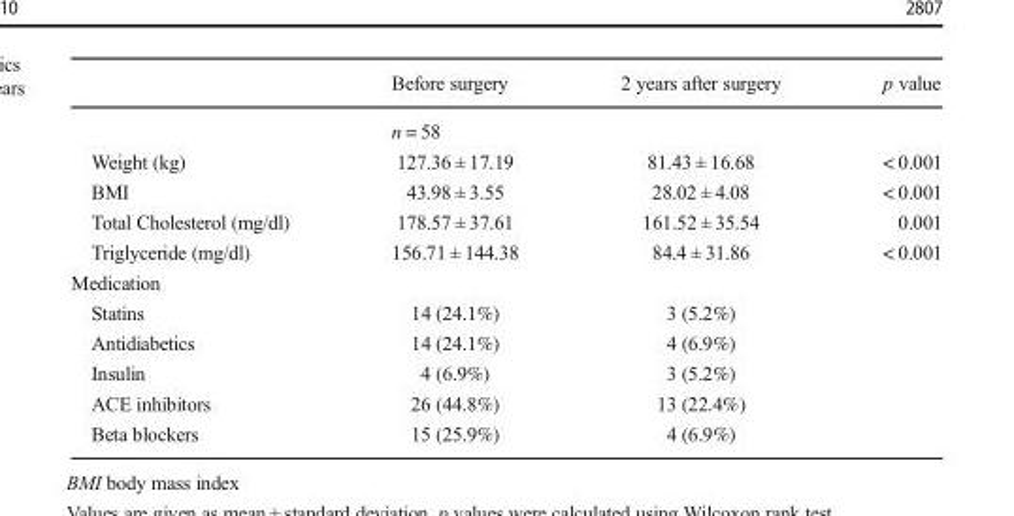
<table><thead><tr><td></td><td>Before surgery</td><td>2 years after surgery</td><td>p value</td></tr></thead><tbody><tr><td></td><td colspan="2">n = 58</td><td></td></tr><tr><td>Weight (kg)</td><td>127.36 ± 17.19</td><td>81.43 ± 16.68</td><td>&lt; 0.001</td></tr><tr><td>BMI</td><td>43.98 ± 3.55</td><td>28.02 ± 4.08</td><td>&lt; 0.001</td></tr><tr><td>Total Cholesterol (mg/dl)</td><td>178.57 ± 37.61</td><td>161.52 ± 35.54</td><td>0.001</td></tr><tr><td>Triglyceride (mg/dl)</td><td>156.71 ± 144.38</td><td>84.4 ± 31.86</td><td>&lt; 0.001</td></tr><tr><td colspan="4">Medication</td></tr><tr><td>Statins</td><td>14 (24.1%)</td><td>3 (5.2%)</td><td></td></tr><tr><td>Antidiabetics</td><td>14 (24.1%)</td><td>4 (6.9%)</td><td></td></tr><tr><td>Insulin</td><td>4 (6.9%)</td><td>3 (5.2%)</td><td></td></tr><tr><td>ACE inhibitors</td><td>26 (44.8%)</td><td>13 (22.4%)</td><td></td></tr><tr><td>Beta blockers</td><td>15 (25.9%)</td><td>4 (6.9%)</td><td></td></tr></tbody></table>